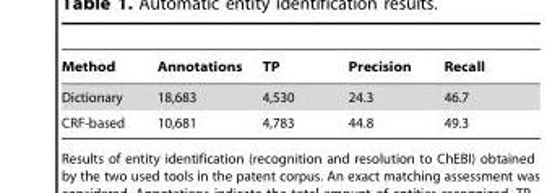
<table><thead><tr><td>Method</td><td>Annotations</td><td>TP</td><td>Precision</td><td>Recall</td></tr></thead><tbody><tr><td>Dictionary</td><td>18,683</td><td>4,530</td><td>24.3</td><td>46.7</td></tr><tr><td>CRF-based</td><td>10,681</td><td>4,783</td><td>44.8</td><td>49.3</td></tr></tbody></table>